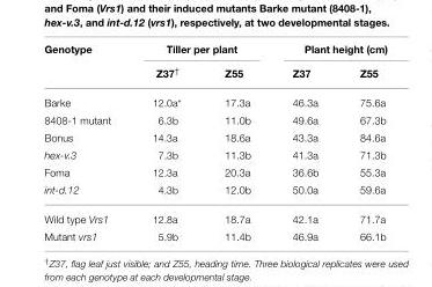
<table><thead><tr><td rowspan="2">Genotype</td><td colspan="2">Tiller per plant</td><td colspan="2">Plant height (cm)</td></tr><tr><td>Z37<sup>†</sup></td><td>Z55</td><td>Z37</td><td>Z55</td></tr></thead><tbody><tr><td>Barke</td><td>12.0a*</td><td>17.3a</td><td>46.3a</td><td>75.6a</td></tr><tr><td>8408-1 mutant</td><td>6.3b</td><td>11.0b</td><td>49.6a</td><td>67.3b</td></tr><tr><td>Bonus</td><td>14.3a</td><td>18.6a</td><td>43.3a</td><td>84.6a</td></tr><tr><td>hex-v.3</td><td>7.3b</td><td>11.3b</td><td>41.3a</td><td>71.3b</td></tr><tr><td>Foma</td><td>12.3a</td><td>20.3a</td><td>36.6b</td><td>55.3a</td></tr><tr><td>int-d.12</td><td>4.3b</td><td>12.0b</td><td>50.0a</td><td>59.6a</td></tr><tr><td>Wild type Vrs1</td><td>12.8a</td><td>18.7a</td><td>42.1a</td><td>71.7a</td></tr><tr><td>Mutant vrs1</td><td>5.9b</td><td>11.4b</td><td>46.9a</td><td>66.1b</td></tr></tbody></table>